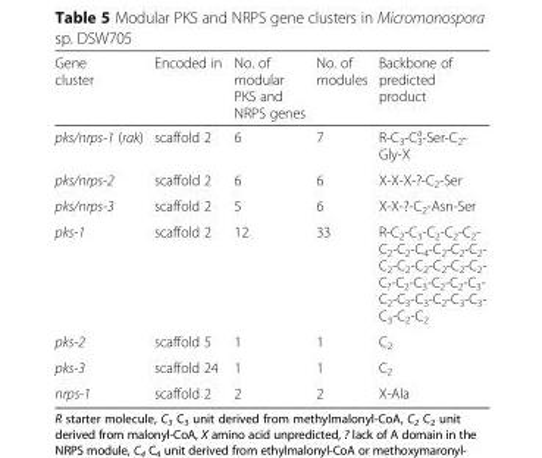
<table><thead><tr><td>Gene cluster</td><td>Encoded in</td><td>No. of modular PKS and NRPS genes</td><td>No. of modules</td><td>Backbone of predicted product</td></tr></thead><tbody><tr><td>pks/nrps-1 (rak)</td><td>scaffold 2</td><td>6</td><td>7</td><td>R-C<sub>3</sub>-C<sub>3</sub> <sup>a</sup>-Ser-C<sub>2</sub>- Gly-X</td></tr><tr><td>pks/nrps-2</td><td>scaffold 2</td><td>6</td><td>6</td><td>X-X-X-?-C<sub>2</sub>-Ser</td></tr><tr><td>pks/nrps-3</td><td>scaffold 2</td><td>5</td><td>6</td><td>X-X-?-C<sub>2</sub>-Asn-Ser</td></tr><tr><td>pks-1</td><td>scaffold 2</td><td>12</td><td>33</td><td>R-C2-C3-C2-C2-C2- C2-C2-C4-C2-C2-C2- C2-C2-C2-C2-C2-C2- C?-C2-C3-C2-C2-C3- C2-C3-C3-C2-C3-C3- C3-C2-C2</td></tr><tr><td>pks-2</td><td>scaffold 5</td><td>1</td><td>1</td><td>C<sub>2</sub></td></tr><tr><td>pks-3</td><td>scaffold 24</td><td>1</td><td>1</td><td>C<sub>2</sub></td></tr><tr><td>nrps-1</td><td>scaffold 2</td><td>2</td><td>2</td><td>X-Ala</td></tr></tbody></table>